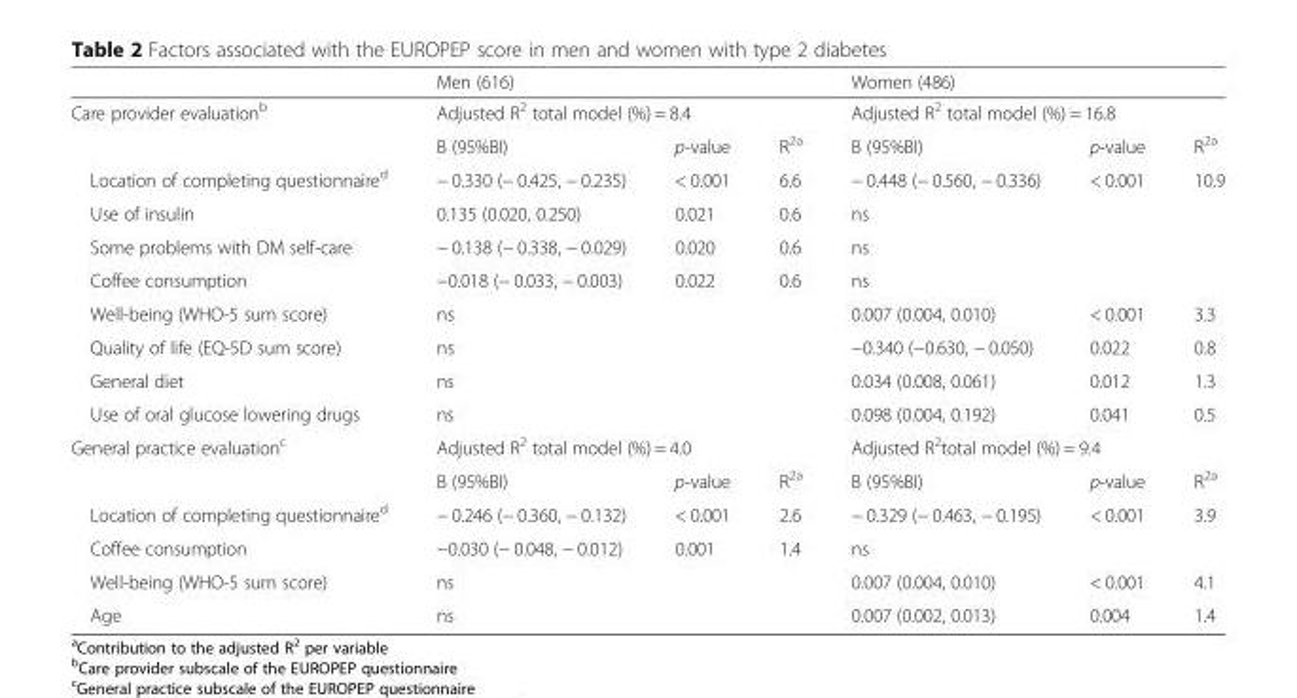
<table><thead><tr><td rowspan="3">Care provider evaluation<sup>b</sup></td><td rowspan="2" colspan="3">Men (616) Adjusted R<sup>2</sup> total model (%) = 8.4</td><td rowspan="2" colspan="3">Women (486) Adjusted R<sup>2</sup> total model (%) = 16.8</td></tr><tr></tr><tr><td>B (95%BI)</td><td>p-value</td><td>R<sup>2a</sup></td><td>B (95%BI)</td><td>p-value</td><td>R<sup>2a</sup></td></tr></thead><tbody><tr><td>Location of completing questionnaire<sup>d</sup></td><td>− 0.330 (− 0.425, − 0.235)</td><td>&lt; 0.001</td><td>6.6</td><td>− 0.448 (− 0.560, − 0.336)</td><td>&lt; 0.001</td><td>10.9</td></tr><tr><td>Use of insulin</td><td>0.135 (0.020, 0.250)</td><td>0.021</td><td>0.6</td><td>ns</td><td></td><td></td></tr><tr><td>Some problems with DM self-care</td><td>− 0.138 (− 0.338, − 0.029)</td><td>0.020</td><td>0.6</td><td>ns</td><td></td><td></td></tr><tr><td>Coffee consumption</td><td>−0.018 (− 0.033, − 0.003)</td><td>0.022</td><td>0.6</td><td>ns</td><td></td><td></td></tr><tr><td>Well-being (WHO-5 sum score)</td><td>ns</td><td></td><td></td><td>0.007 (0.004, 0.010)</td><td>&lt; 0.001</td><td>3.3</td></tr><tr><td>Quality of life (EQ-5D sum score)</td><td>ns</td><td></td><td></td><td>−0.340 (−0.630, − 0.050)</td><td>0.022</td><td>0.8</td></tr><tr><td>General diet</td><td>ns</td><td></td><td></td><td>0.034 (0.008, 0.061)</td><td>0.012</td><td>1.3</td></tr><tr><td>Use of oral glucose lowering drugs</td><td>ns</td><td></td><td></td><td>0.098 (0.004, 0.192)</td><td>0.041</td><td>0.5</td></tr><tr><td rowspan="2">General practice evaluation<sup>c</sup></td><td colspan="3">Adjusted R<sup>2</sup> total model (%) = 4.0</td><td colspan="3">Adjusted R<sup>2</sup>total model (%) = 9.4</td></tr><tr><td>B (95%BI)</td><td>p-value</td><td>R<sup>2a</sup></td><td>B (95%BI)</td><td>p-value</td><td>R<sup>2a</sup></td></tr><tr><td>Location of completing questionnaire<sup>d</sup></td><td>− 0.246 (− 0.360, − 0.132)</td><td>&lt; 0.001</td><td>2.6</td><td>− 0.329 (− 0.463, − 0.195)</td><td>&lt; 0.001</td><td>3.9</td></tr><tr><td>Coffee consumption</td><td>−0.030 (− 0.048, − 0.012)</td><td>0.001</td><td>1.4</td><td>ns</td><td></td><td></td></tr><tr><td>Well-being (WHO-5 sum score)</td><td>ns</td><td></td><td></td><td>0.007 (0.004, 0.010)</td><td>&lt; 0.001</td><td>4.1</td></tr><tr><td>Age</td><td>ns</td><td></td><td></td><td>0.007 (0.002, 0.013)</td><td>0.004</td><td>1.4</td></tr></tbody></table>